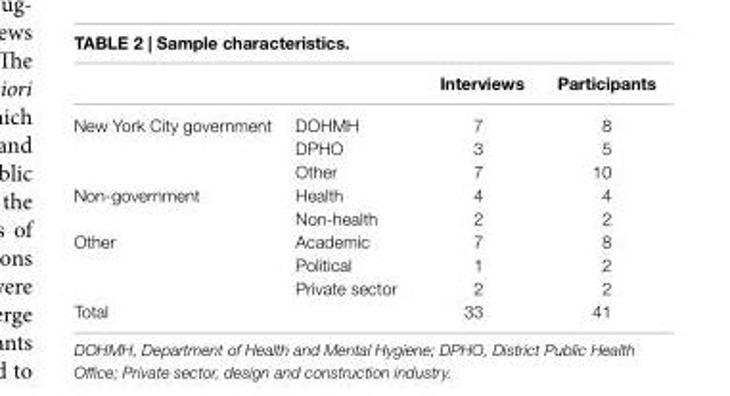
<table><thead><tr><td></td><td></td><td>interviews</td><td>Participants</td></tr></thead><tbody><tr><td rowspan="3">New York City government</td><td>DOHMH</td><td>7</td><td>8</td></tr><tr><td>DPHO</td><td>3</td><td>5</td></tr><tr><td>Other</td><td>7</td><td>10</td></tr><tr><td rowspan="2">Non-government</td><td>Health</td><td>4</td><td>4</td></tr><tr><td>Non-health</td><td>2</td><td>2</td></tr><tr><td rowspan="3">Other</td><td>Academic</td><td>7</td><td>8</td></tr><tr><td>Political</td><td>1</td><td>2</td></tr><tr><td>Private sector</td><td>2</td><td>2</td></tr><tr><td>Total</td><td></td><td>33</td><td>41</td></tr></tbody></table>